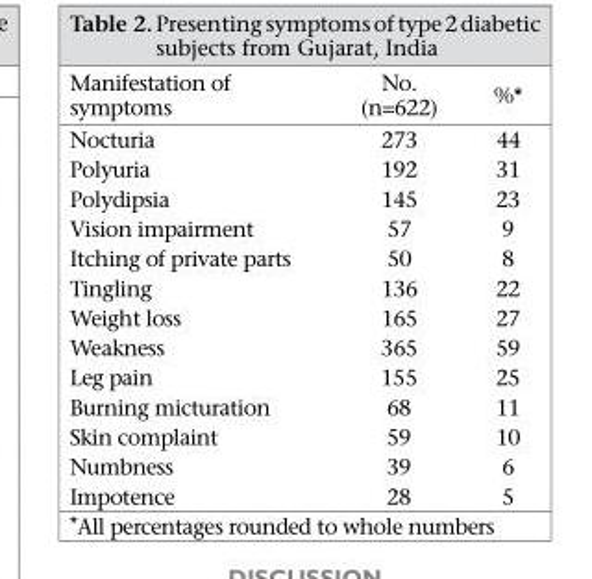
<table><thead><tr><td>Manifestation of symptoms</td><td>No. (n=622)</td><td>%*</td></tr></thead><tbody><tr><td>Nocturia</td><td>273</td><td>44</td></tr><tr><td>Polyuria</td><td>192</td><td>31</td></tr><tr><td>Polydipsia</td><td>145</td><td>23</td></tr><tr><td>Vision impairment</td><td>57</td><td>9</td></tr><tr><td>Itching of private parts</td><td>50</td><td>8</td></tr><tr><td>Tingling</td><td>136</td><td>22</td></tr><tr><td>Weight loss</td><td>165</td><td>27</td></tr><tr><td>Weakness</td><td>365</td><td>59</td></tr><tr><td>Leg pain</td><td>155</td><td>25</td></tr><tr><td>Burning micturation</td><td>68</td><td>11</td></tr><tr><td>Skin complaint</td><td>59</td><td>10</td></tr><tr><td>Numbness</td><td>39</td><td>6</td></tr><tr><td>Impotence</td><td>28</td><td>5</td></tr></tbody></table>